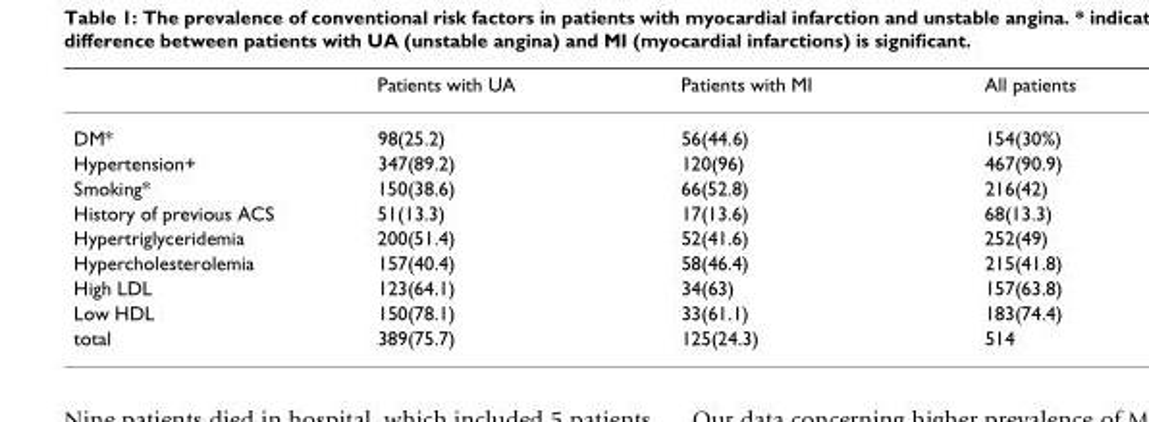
<table><thead><tr><td></td><td>Patients with UA</td><td>Patients with MI</td><td>All patients</td></tr></thead><tbody><tr><td>DM*</td><td>98(25.2)</td><td>56(44.6)</td><td>154(30%)</td></tr><tr><td>Hypertension+</td><td>347(89.2)</td><td>120(96)</td><td>467(90.9)</td></tr><tr><td>Smoking*</td><td>150(38.6)</td><td>66(52.8)</td><td>216(42)</td></tr><tr><td>History of previous ACS</td><td>51(13.3)</td><td>17(13.6)</td><td>68(13.3)</td></tr><tr><td>Hypertriglyceridemia</td><td>200(51.4)</td><td>52(41.6)</td><td>252(49)</td></tr><tr><td>Hypercholesterolemia</td><td>157(40.4)</td><td>58(46.4)</td><td>215(41.8)</td></tr><tr><td>High LDL</td><td>123(64.1)</td><td>34(63)</td><td>157(63.8)</td></tr><tr><td>Low HDL</td><td>150(78.1)</td><td>33(61.1)</td><td>183(74.4)</td></tr><tr><td>total</td><td>389(75.7)</td><td>125(24.3)</td><td>514</td></tr></tbody></table>